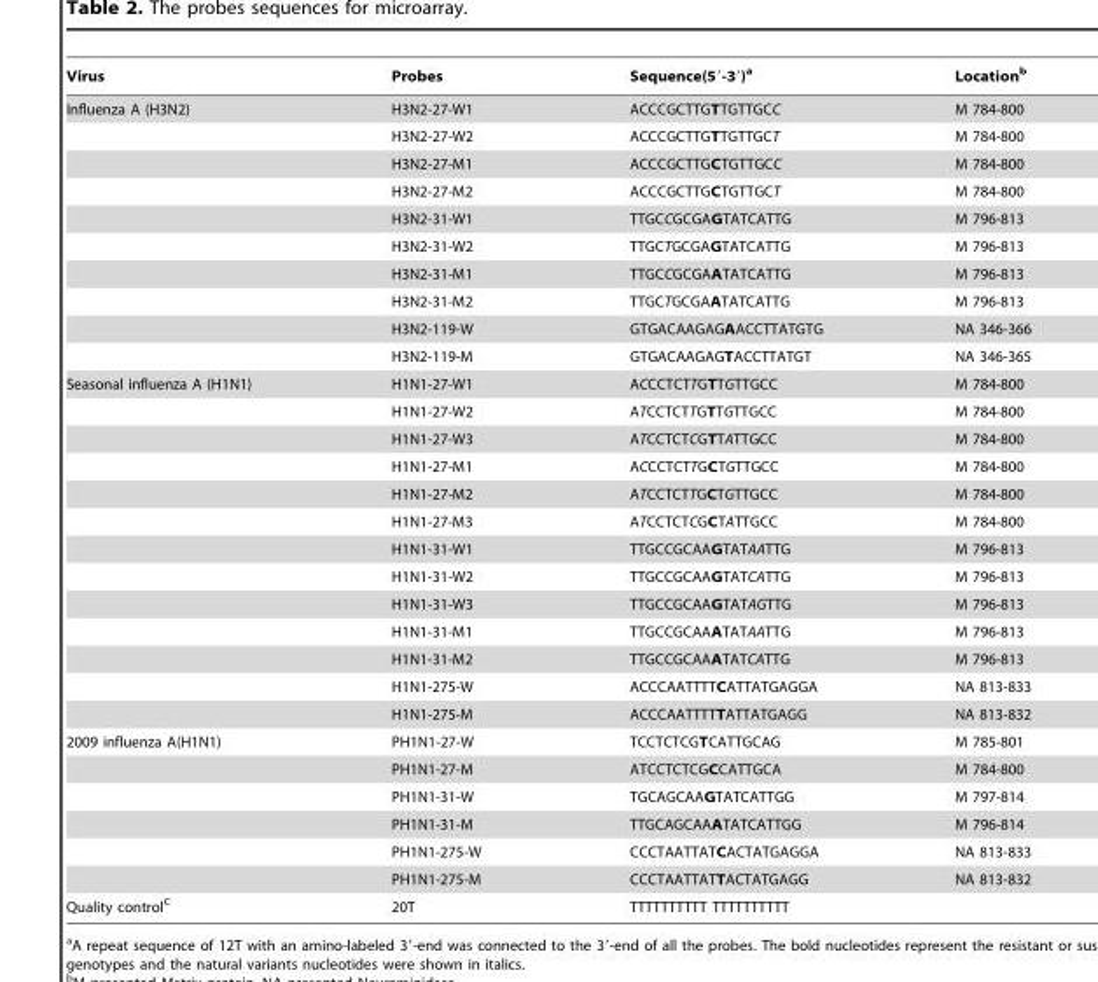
<table><thead><tr><td>Virus</td><td>Probes</td><td>Sequence(5′-3′)<sup>a</sup></td><td>Location<sup>b</sup></td></tr></thead><tbody><tr><td rowspan="10">Influenza A (H3N2)</td><td>H3N2-27-W1</td><td>ACCCGCTTGTTGTTGCC</td><td>M 784-800</td></tr><tr><td>H3N2-27-W2</td><td>ACCCGCTTGTTGTTGCT</td><td>M 784-800</td></tr><tr><td>H3N2-27-M1</td><td>ACCCGCTTGCTGTTGCC</td><td>M 784-800</td></tr><tr><td>H3N2-27-M2</td><td>ACCCGCTTGCTGTTGCT</td><td>M 784-800</td></tr><tr><td>H3N2-31-W1</td><td>TTGCCGCGAGTATCATTG</td><td>M 796-813</td></tr><tr><td>H3N2-31-W2</td><td>TTGCTGCGAGTATCATTG</td><td>M 796-813</td></tr><tr><td>H3N2-31-M1</td><td>TTGCCGCGAATATCATTG</td><td>M 796-813</td></tr><tr><td>H3N2-31-M2</td><td>TTGCTGCGAATATCATTG</td><td>M 796-813</td></tr><tr><td>H3N2-119-W</td><td>GTGACAAGAGAACCTTATGTG</td><td>NA 346-366</td></tr><tr><td>H3N2-119-M</td><td>GTGACAAGAGTACCTTATGT</td><td>NA 346-365</td></tr><tr><td rowspan="13">Seasonal influenza A (H1N1)</td><td>H1N1-27-W1</td><td>ACCCTCTTGTTGTTGCC</td><td>M 784-800</td></tr><tr><td>H1N1-27-W2</td><td>ATCCTCTTGTTGTTGCC</td><td>M 784-800</td></tr><tr><td>H1N1-27-W3</td><td>ATCCTCTCGTTATTGCC</td><td>M 784-800</td></tr><tr><td>H1N1-27-M1</td><td>ACCCTCTTGCTGTTGCC</td><td>M 784-800</td></tr><tr><td>H1N1-27-M2</td><td>ATCCTCTTGCTGTTGCC</td><td>M 784-800</td></tr><tr><td>H1N1-27-M3</td><td>ATCCTCTCGCTATTGCC</td><td>M 784-800</td></tr><tr><td>H1N1-31-W1</td><td>TTGCCGCAAGTATAATTG</td><td>M 796-813</td></tr><tr><td>H1N1-31-W2</td><td>TTGCCGCAAGTATCATTG</td><td>M 796-813</td></tr><tr><td>H1N1-31-W3</td><td>TTGCCGCAAGTATAGTTG</td><td>M 796-813</td></tr><tr><td>H1N1-31-M1</td><td>TTGCCGCAAATATAATTG</td><td>M 796-813</td></tr><tr><td>H1N1-31-M2</td><td>TTGCCGCAAATATCATTG</td><td>M 796-813</td></tr><tr><td>H1N1-275-W</td><td>ACCCAATTTTCATTATGAGGA</td><td>NA 813-833</td></tr><tr><td>H1N1-275-M</td><td>ACCCAATTTTTATTATGAGG</td><td>NA 813-832</td></tr><tr><td rowspan="6">2009 influenza A(H1N1)</td><td>PH1N1-27-W</td><td>TCCTCTCGTCATTGCAG</td><td>M 785-801</td></tr><tr><td>PH1N1-27-M</td><td>ATCCTCTCGCCATTGCA</td><td>M 784-800</td></tr><tr><td>PH1N1-31-W</td><td>TGCAGCAAGTATCATTGG</td><td>M 797-814</td></tr><tr><td>PH1N1-31-M</td><td>TTGCAGCAAATATCATTGG</td><td>M 796-814</td></tr><tr><td>PH1N1-275-W</td><td>CCCTAATTATCACTATGAGGA</td><td>NA 813-833</td></tr><tr><td>PH1N1-275-M</td><td>CCCTAATTATTACTATGAGG</td><td>NA 813-832</td></tr><tr><td>Quality control<sup>C</sup></td><td>20T</td><td>TTTTTTTTTT TTTTTTTTTT</td><td></td></tr></tbody></table>